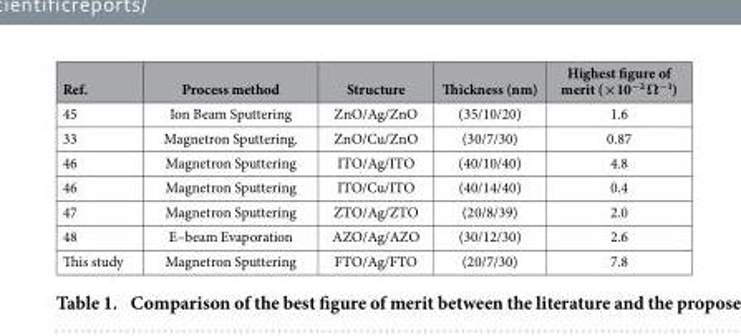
<table><thead><tr><td>Ref.</td><td>Process method</td><td>Structure</td><td>Thickness (nm)</td><td>Highest figure of merit (×10<sup>−2</sup> Ω<sup>−1</sup>)</td></tr></thead><tbody><tr><td>45</td><td>Ion Beam Sputtering</td><td>ZnO/Ag/ZnO</td><td>(35/10/20)</td><td>1.6</td></tr><tr><td>33</td><td>Magnetron Sputtering.</td><td>ZnO/Cu/ZnO</td><td>(30/7/30)</td><td>0.87</td></tr><tr><td>46</td><td>Magnetron Sputtering</td><td>ITO/Ag/ITO</td><td>(40/10/40)</td><td>4.8</td></tr><tr><td>46</td><td>Magnetron Sputtering</td><td>ITO/Cu/ITO</td><td>(40/14/40)</td><td>0.4</td></tr><tr><td>47</td><td>Magnetron Sputtering</td><td>ZTO/Ag/ZTO</td><td>(20/8/39)</td><td>2.0</td></tr><tr><td>48</td><td>E–beam Evaporation</td><td>AZO/Ag/AZO</td><td>(30/12/30)</td><td>2.6</td></tr><tr><td>This study</td><td>Magnetron Sputtering</td><td>FTO/Ag/FTO</td><td>(20/7/30)</td><td>7.8</td></tr></tbody></table>